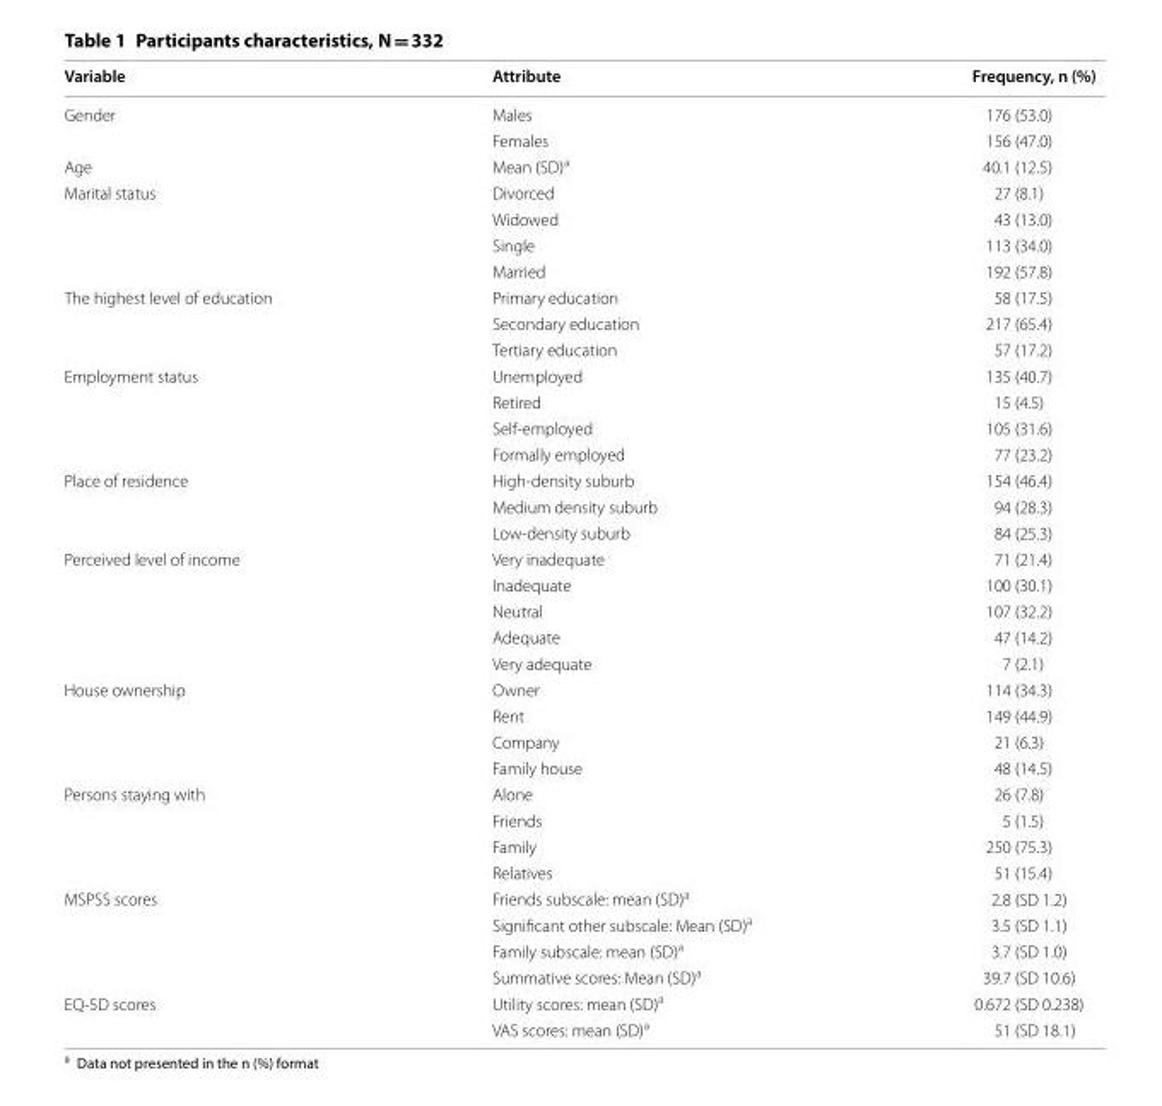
<table><thead><tr><td>Variable</td><td>Attribute</td><td>Frequency, n (%)</td></tr></thead><tbody><tr><td rowspan="2">Gender</td><td>Males</td><td>176 (53.0)</td></tr><tr><td>Females</td><td>156 (47.0)</td></tr><tr><td>Age</td><td>Mean (SD)<sup>a</sup></td><td>40.1 (12.5)</td></tr><tr><td rowspan="4">Marital status</td><td>Divorced</td><td>27 (8.1)</td></tr><tr><td>Widowed</td><td>43 (13.0)</td></tr><tr><td>Single</td><td>113 (34.0)</td></tr><tr><td>Married</td><td>192 (57.8)</td></tr><tr><td rowspan="3">The highest level of education</td><td>Primary education</td><td>58 (17.5)</td></tr><tr><td>Secondary education</td><td>217 (65.4)</td></tr><tr><td>Tertiary education</td><td>57 (17.2)</td></tr><tr><td rowspan="4">Employment status</td><td>Unemployed</td><td>135 (40.7)</td></tr><tr><td>Retired</td><td>15 (4.5)</td></tr><tr><td>Self-employed</td><td>105 (31.6)</td></tr><tr><td>Formally employed</td><td>77 (23.2)</td></tr><tr><td rowspan="3">Place of residence</td><td>High-density suburb</td><td>154 (46.4)</td></tr><tr><td>Medium density suburb</td><td>94 (28.3)</td></tr><tr><td>Low-density suburb</td><td>84 (25.3)</td></tr><tr><td rowspan="5">Perceived level of income</td><td>Very inadequate</td><td>71 (21.4)</td></tr><tr><td>Inadequate</td><td>100 (30.1)</td></tr><tr><td>Neutral</td><td>107 (32.2)</td></tr><tr><td>Adequate</td><td>47 (14.2)</td></tr><tr><td>Very adequate</td><td>7 (2.1)</td></tr><tr><td rowspan="4">House ownership</td><td>Owner</td><td>114 (34.3)</td></tr><tr><td>Rent</td><td>149 (44.9)</td></tr><tr><td>Company</td><td>21 (6.3)</td></tr><tr><td>Family house</td><td>48 (14.5)</td></tr><tr><td rowspan="4">Persons staying with</td><td>Alone</td><td>26 (7.8)</td></tr><tr><td>Friends</td><td>5 (1.5)</td></tr><tr><td>Family</td><td>250 (75.3)</td></tr><tr><td>Relatives</td><td>51 (15.4)</td></tr><tr><td rowspan="4">MSPSS scores</td><td>Friends subscale: mean (SD)<sup>a</sup></td><td>2.8 (SD 1.2)</td></tr><tr><td>Significant other subscale: Mean (SD)<sup>a</sup></td><td>3.5 (SD 1.1)</td></tr><tr><td>Family subscale: mean (SD)<sup>a</sup></td><td>3.7 (SD 1.0)</td></tr><tr><td>Summative scores: Mean (SD)<sup>a</sup></td><td>39.7 (SD 10.6)</td></tr><tr><td rowspan="2">EQ-5D scores</td><td>Utility scores: mean (SD)<sup>a</sup></td><td>0.672 (SD 0.238)</td></tr><tr><td>VAS scores: mean (SD)<sup>a</sup></td><td>51 (SD 18.1)</td></tr></tbody></table>